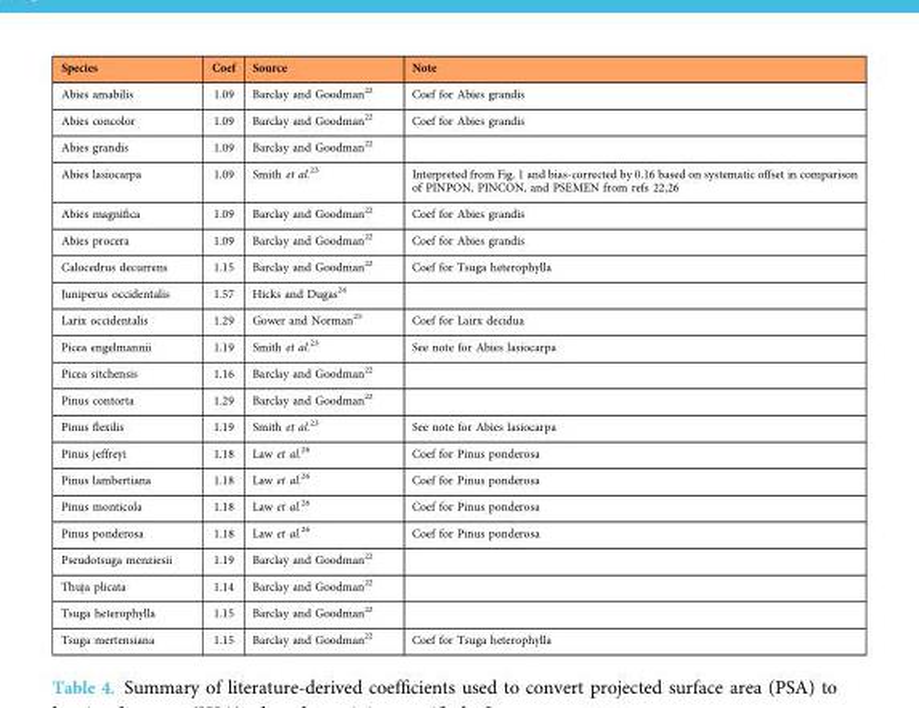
<table><thead><tr><td>Species</td><td>Coef</td><td>Source</td><td>Note</td></tr></thead><tbody><tr><td>Abies amabilis</td><td>1.09</td><td>Barclay and Goodman<sup>22</sup></td><td>Coef for Abies grandis</td></tr><tr><td>Abies concolor</td><td>1.09</td><td>Barclay and Goodman<sup>22</sup></td><td>Coef for Abies grandis</td></tr><tr><td>Abies grandis</td><td>1.09</td><td>Barclay and Goodman<sup>22</sup></td><td></td></tr><tr><td>Abies lasiocarpa</td><td>1.09</td><td>Smith et al.<sup>23</sup></td><td>Interpreted from Fig. 1 and bias-corrected by 0.16 based on systematic offset in comparison of PINPON, PINCON, and PSEMEN from refs 22,26</td></tr><tr><td>Abies magnifica</td><td>1.09</td><td>Barclay and Goodman<sup>22</sup></td><td>Coef for Abies grandis</td></tr><tr><td>Abies procera</td><td>1.09</td><td>Barclay and Goodman<sup>22</sup></td><td>Coef for Abies grandis</td></tr><tr><td>Calocedrus decurrens</td><td>1.15</td><td>Barclay and Goodman<sup>22</sup></td><td>Coef for Tsuga heterophylla</td></tr><tr><td>Juniperus occidentalis</td><td>1.57</td><td>Hicks and Dugas<sup>24</sup></td><td></td></tr><tr><td>Larix occidentalis</td><td>1.29</td><td>Gower and Norman<sup>25</sup></td><td>Coef for Lairx decidua</td></tr><tr><td>Picea engelmannii</td><td>1.19</td><td>Smith et al.<sup>23</sup></td><td>See note for Abies lasiocarpa</td></tr><tr><td>Picea sitchensis</td><td>1.16</td><td>Barclay and Goodman<sup>22</sup></td><td></td></tr><tr><td>Pinus contorta</td><td>1.29</td><td>Barclay and Goodman<sup>22</sup></td><td></td></tr><tr><td>Pinus flexilis</td><td>1.19</td><td>Smith et al.<sup>23</sup></td><td>See note for Abies lasiocarpa</td></tr><tr><td>Pinus jeffreyi</td><td>1.18</td><td>Law et al.<sup>26</sup></td><td>Coef for Pinus ponderosa</td></tr><tr><td>Pinus lambertiana</td><td>1.18</td><td>Law et al.<sup>26</sup></td><td>Coef for Pinus ponderosa</td></tr><tr><td>Pinus monticola</td><td>1.18</td><td>Law et al.<sup>26</sup></td><td>Coef for Pinus ponderosa</td></tr><tr><td>Pinus ponderosa</td><td>1.18</td><td>Law et al.<sup>26</sup></td><td>Coef for Pinus ponderosa</td></tr><tr><td>Pseudotsuga menziesii</td><td>1.19</td><td>Barclay and Goodman<sup>22</sup></td><td></td></tr><tr><td>Thuja plicata</td><td>1.14</td><td>Barclay and Goodman<sup>22</sup></td><td></td></tr><tr><td>Tsuga heterophylla</td><td>1.15</td><td>Barclay and Goodman<sup>22</sup></td><td></td></tr><tr><td>Tsuga mertensiana</td><td>1.15</td><td>Barclay and Goodman<sup>22</sup></td><td>Coef for Tsuga heterophylla</td></tr></tbody></table>